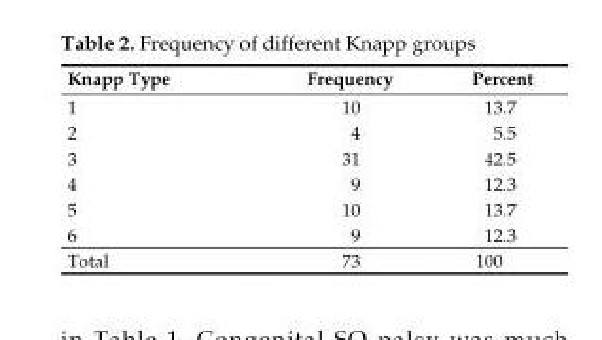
<table><thead><tr><td>Knapp Type</td><td>Frequency</td><td>Percent</td></tr></thead><tbody><tr><td>1</td><td>10</td><td>13.7</td></tr><tr><td>2</td><td>4</td><td>5.5</td></tr><tr><td>3</td><td>31</td><td>42.5</td></tr><tr><td>4</td><td>9</td><td>12.3</td></tr><tr><td>5</td><td>10</td><td>13.7</td></tr><tr><td>6</td><td>9</td><td>12.3</td></tr><tr><td>Total</td><td>73</td><td>100</td></tr></tbody></table>